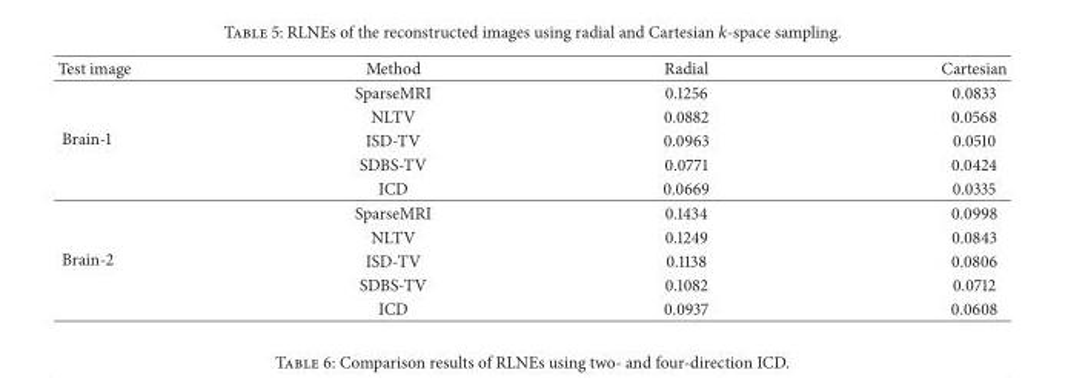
<table><thead><tr><td>Test image</td><td>Method</td><td>Radial</td><td>Cartesian</td></tr></thead><tbody><tr><td rowspan="5">Brain-1</td><td>SparseMRI</td><td>0.1256</td><td>0.0833</td></tr><tr><td>NLTV</td><td>0.0882</td><td>0.0568</td></tr><tr><td>ISD-TV</td><td>0.0963</td><td>0.0510</td></tr><tr><td>SDBS-TV</td><td>0.0771</td><td>0.0424</td></tr><tr><td>ICD</td><td>0.0669</td><td>0.0335</td></tr><tr><td rowspan="5">Brain-2</td><td>SparseMRI</td><td>0.1434</td><td>0.0998</td></tr><tr><td>NLTV</td><td>0.1249</td><td>0.0843</td></tr><tr><td>ISD-TV</td><td>0.1138</td><td>0.0806</td></tr><tr><td>SDBS-TV</td><td>0.1082</td><td>0.0712</td></tr><tr><td>ICD</td><td>0.0937</td><td>0.0608</td></tr></tbody></table>